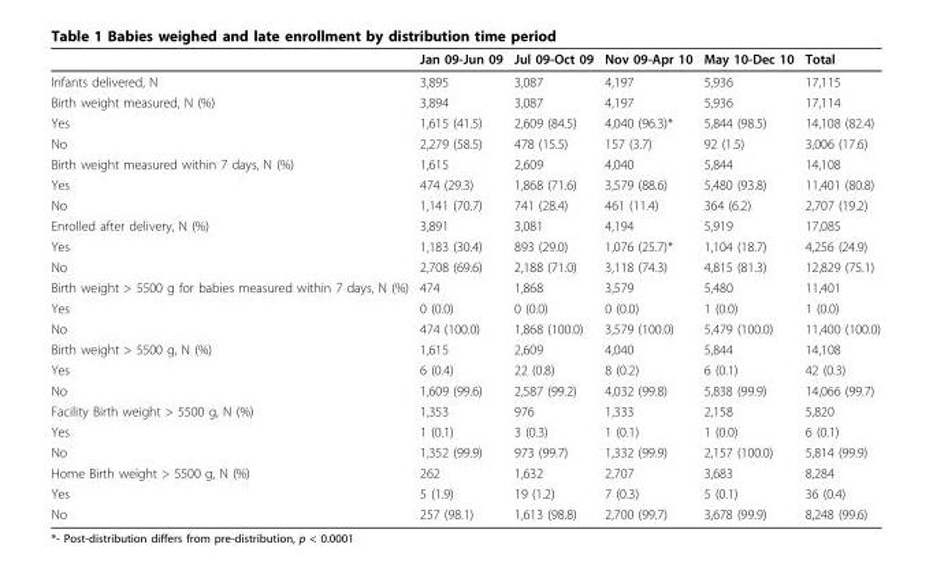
<table><thead><tr><td></td><td>Jan 09-Jun 09</td><td>Jul 09-Oct 09</td><td>Nov 09-Apr 10</td><td>May 10-Dec 10</td><td>Total</td></tr></thead><tbody><tr><td>Infants delivered, N</td><td>3,895</td><td>3,087</td><td>4,197</td><td>5,936</td><td>17,115</td></tr><tr><td>Birth weight measured, N (%)</td><td>3,894</td><td>3,087</td><td>4,197</td><td>5,936</td><td>17,114</td></tr><tr><td>Yes</td><td>1,615 (41.5)</td><td>2,609 (84.5)</td><td>4,040 (96.3)*</td><td>5,844 (98.5)</td><td>14,108 (82.4)</td></tr><tr><td>No</td><td>2,279 (58.5)</td><td>478 (15.5)</td><td>157 (3.7)</td><td>92 (1.5)</td><td>3,006 (17.6)</td></tr><tr><td>Birth weight measured within 7 days, N (%)</td><td>1,615</td><td>2,609</td><td>4,040</td><td>5,844</td><td>14,108</td></tr><tr><td>Yes</td><td>474 (29.3)</td><td>1,868 (71.6)</td><td>3,579 (88.6)</td><td>5,480 (93.8)</td><td>11,401 (80.8)</td></tr><tr><td>No</td><td>1,141 (70.7)</td><td>741 (28.4)</td><td>461 (11.4)</td><td>364 (6.2)</td><td>2,707 (19.2)</td></tr><tr><td>Enrolled after delivery, N (%)</td><td>3,891</td><td>3,081</td><td>4,194</td><td>5,919</td><td>17,085</td></tr><tr><td>Yes</td><td>1,183 (30.4)</td><td>893 (29.0)</td><td>1,076 (25.7)*</td><td>1,104 (18.7)</td><td>4,256 (24.9)</td></tr><tr><td>No</td><td>2,708 (69.6)</td><td>2,188 (71.0)</td><td>3,118 (74.3)</td><td>4,815 (81.3)</td><td>12,829 (75.1)</td></tr><tr><td>Birth weight &gt; 5500 g for babies measured within 7 days, N (%)</td><td>474</td><td>1,868</td><td>3,579</td><td>5,480</td><td>11,401</td></tr><tr><td>Yes</td><td>0 (0.0)</td><td>0 (0.0)</td><td>0 (0.0)</td><td>1 (0.0)</td><td>1 (0.0)</td></tr><tr><td>No</td><td>474 (100.0)</td><td>1,868 (100.0)</td><td>3,579 (100.0)</td><td>5,479 (100.0)</td><td>11,400 (100.0)</td></tr><tr><td>Birth weight &gt; 5500 g, N (%)</td><td>1,615</td><td>2,609</td><td>4,040</td><td>5,844</td><td>14,108</td></tr><tr><td>Yes</td><td>6 (0.4)</td><td>22 (0.8)</td><td>8 (0.2)</td><td>6 (0.1)</td><td>42 (0.3)</td></tr><tr><td>No</td><td>1,609 (99.6)</td><td>2,587 (99.2)</td><td>4,032 (99.8)</td><td>5,838 (99.9)</td><td>14,066 (99.7)</td></tr><tr><td>Facility Birth weight &gt; 5500 g, N (%)</td><td>1,353</td><td>976</td><td>1,333</td><td>2,158</td><td>5,820</td></tr><tr><td>Yes</td><td>1 (0.1)</td><td>3 (0.3)</td><td>1 (0.1)</td><td>1 (0.0)</td><td>6 (0.1)</td></tr><tr><td>No</td><td>1,352 (99.9)</td><td>973 (99.7)</td><td>1,332 (99.9)</td><td>2,157 (100.0)</td><td>5,814 (99.9)</td></tr><tr><td>Home Birth weight &gt; 5500 g, N (%)</td><td>262</td><td>1,632</td><td>2,707</td><td>3,683</td><td>8,284</td></tr><tr><td>Yes</td><td>5 (1.9)</td><td>19 (1.2)</td><td>7 (0.3)</td><td>5 (0.1)</td><td>36 (0.4)</td></tr><tr><td>No</td><td>257 (98.1)</td><td>1,613 (98.8)</td><td>2,700 (99.7)</td><td>3,678 (99.9)</td><td>8,248 (99.6)</td></tr></tbody></table>